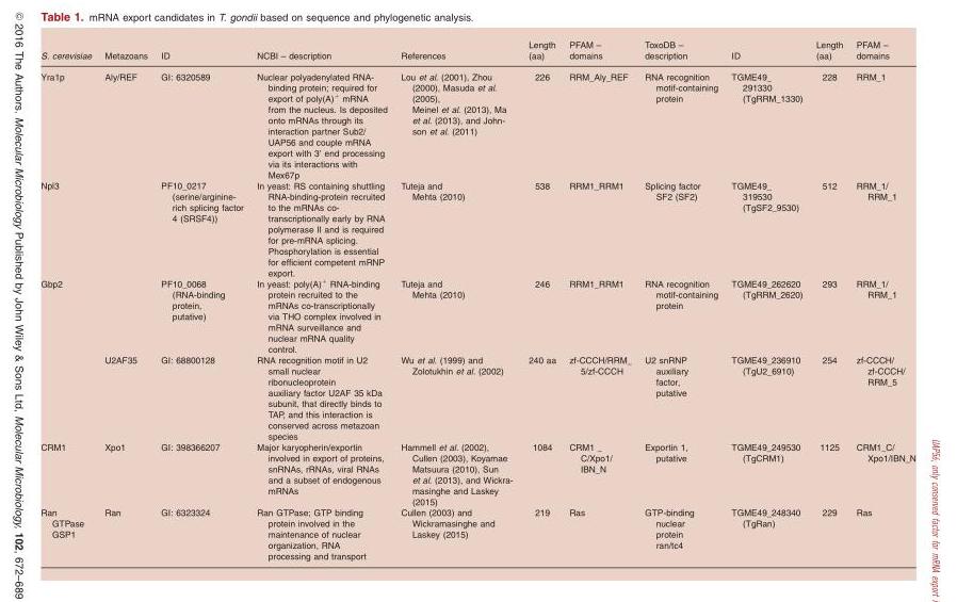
<table><thead><tr><td>S. cerevisiae</td><td>Metazoans</td><td>ID</td><td>NCBI – description</td><td>References</td><td>Length (aa)</td><td>PFAM – domains</td><td>ToxoDB – description</td><td>ID</td><td>Length (aa)</td><td>PFAM – domains</td></tr></thead><tbody><tr><td>Yra1p</td><td>Aly/REF</td><td>GI: 6320589</td><td>Nuclear polyadenylated RNA- binding protein; required for export of poly(A)<sup>+</sup> mRNA from the nucleus. Is deposited onto mRNAs through its interaction partner Sub2/ UAP56 and couple mRNA export with 3′ end processing via its interactions with Mex67p</td><td>Lou et al. (2001), Zhou (2000), Masuda et al. (2005), Meinel et al. (2013), Ma et al. (2013), and John- son et al. (2011)</td><td>226</td><td>RRM_Aly_REF</td><td>RNA recognition motif-containing protein</td><td>TGME49_ 291330 (TgRRM_1330)</td><td>228</td><td>RRM_1</td></tr><tr><td>Npl3</td><td></td><td>PF10_0217 (serine/arginine- rich splicing factor 4 (SRSF4))</td><td>In yeast: RS containing shuttling RNA-binding-protein recruited to the mRNAs co- transcriptionally early by RNA polymerase II and is required for pre-mRNA splicing. Phosphorylation is essential for efficient competent mRNP export.</td><td>Tuteja and Mehta (2010)</td><td>538</td><td>RRM1_RRM1</td><td>Splicing factor SF2 (SF2)</td><td>TGME49_ 319530 (TgSF2_9530)</td><td>512</td><td>RRM_1/ RRM_1</td></tr><tr><td rowspan="2">Gbp2</td><td></td><td>PF10_0068 (RNA-binding protein, putative)</td><td>In yeast: poly(A)<sup>+</sup> RNA-binding protein recruited to the mRNAs co-transcriptionally via THO complex involved in mRNA surveillance and nuclear mRNA quality control.</td><td>Tuteja and Mehta (2010)</td><td>246</td><td>RRM1_RRM1</td><td>RNA recognition motif-containing protein</td><td>TGME49_262620 (TgRRM_2620)</td><td>293</td><td>RRM_1/ RRM_1</td></tr><tr><td>U2AF35</td><td>GI: 68800128</td><td>RNA recognition motif in U2 small nuclear ribonucleoprotein auxiliary factor U2AF 35 kDa subunit, that directly binds to TAP, and this interaction is conserved across metazoan species</td><td>Wu et al. (1999) and Zolotukhin et al. (2002)</td><td>240 aa</td><td>zf-CCCH/RRM_ 5/zf-CCCH</td><td>U2 snRNP auxiliary factor, putative</td><td>TGME49_236910 (TgU2_6910)</td><td>254</td><td>zf-CCCH/ zf-CCCH/ RRM_5</td></tr><tr><td>CRM1</td><td>Xpo1</td><td>GI: 398366207</td><td>Major karyopherin/exportin involved in export of proteins, snRNAs, rRNAs, viral RNAs and a subset of endogenous mRNAs</td><td>Hammell et al. (2002), Cullen (2003), Koyamae Matsuura (2010), Sun et al. (2013), and Wickra- masinghe and Laskey (2015)</td><td>1084</td><td>CRM1 _ C/Xpo1/ IBN_N</td><td>Exportin 1, putative</td><td>TGME49_249530 (TgCRM1)</td><td>1125</td><td>CRM1_C/ Xpo1/IBN_N</td></tr><tr><td>Ran GTPase GSP1</td><td>Ran</td><td>GI: 6323324</td><td>Ran GTPase; GTP binding protein involved in the maintenance of nuclear organization, RNA processing and transport</td><td>Cullen (2003) and Wickramasinghe and Laskey (2015)</td><td>219</td><td>Ras</td><td>GTP-binding nuclear protein ran/tc4</td><td>TGME49_248340 (TgRan)</td><td>229</td><td>Ras</td></tr></tbody></table>